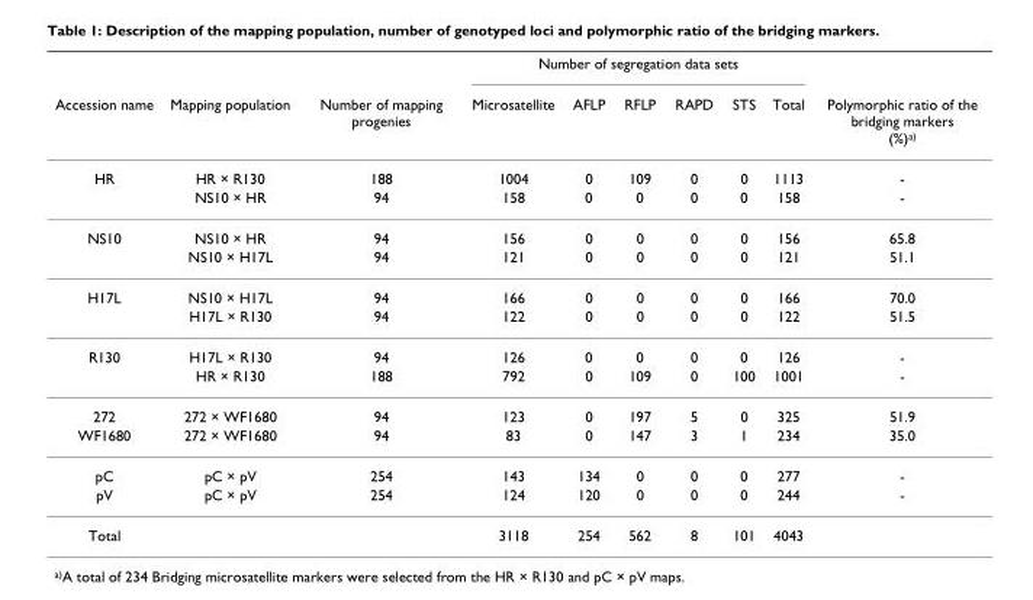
<table><thead><tr><td rowspan="2">Accession name</td><td rowspan="2">Mapping population</td><td rowspan="2">Number of mapping progenies</td><td colspan="6">Number of segregation data sets</td><td rowspan="2">Polymorphic ratio of the bridging markers (%)<sup>a)</sup></td></tr><tr><td>Microsatellite</td><td>AFLP</td><td>RFLP</td><td>RAPD</td><td>STS</td><td>Total</td></tr></thead><tbody><tr><td rowspan="2">HR</td><td>HR × R130</td><td>188</td><td>1004</td><td>0</td><td>109</td><td>0</td><td>0</td><td>1113</td><td>-</td></tr><tr><td>NS10 × HR</td><td>94</td><td>158</td><td>0</td><td>0</td><td>0</td><td>0</td><td>158</td><td>-</td></tr><tr><td rowspan="2">NS10</td><td>NS10 × HR</td><td>94</td><td>156</td><td>0</td><td>0</td><td>0</td><td>0</td><td>156</td><td>65.8</td></tr><tr><td>NS10 × H17L</td><td>94</td><td>121</td><td>0</td><td>0</td><td>0</td><td>0</td><td>121</td><td>51.1</td></tr><tr><td rowspan="2">H17L</td><td>NS10 × H17L</td><td>94</td><td>166</td><td>0</td><td>0</td><td>0</td><td>0</td><td>166</td><td>70.0</td></tr><tr><td>H17L × R130</td><td>94</td><td>122</td><td>0</td><td>0</td><td>0</td><td>0</td><td>122</td><td>51.5</td></tr><tr><td rowspan="2">R130</td><td>H17L × R130</td><td>94</td><td>126</td><td>0</td><td>0</td><td>0</td><td>0</td><td>126</td><td>-</td></tr><tr><td>HR × R130</td><td>188</td><td>792</td><td>0</td><td>109</td><td>0</td><td>100</td><td>1001</td><td>-</td></tr><tr><td>272</td><td>272 × WF1680</td><td>94</td><td>123</td><td>0</td><td>197</td><td>5</td><td>0</td><td>325</td><td>51.9</td></tr><tr><td>WF1680</td><td>272 × WF1680</td><td>94</td><td>83</td><td>0</td><td>147</td><td>3</td><td>1</td><td>234</td><td>35.0</td></tr><tr><td>pC</td><td>pC × pV</td><td>254</td><td>143</td><td>134</td><td>0</td><td>0</td><td>0</td><td>277</td><td>-</td></tr><tr><td>pV</td><td>pC × pV</td><td>254</td><td>124</td><td>120</td><td>0</td><td>0</td><td>0</td><td>244</td><td>-</td></tr><tr><td>Total</td><td></td><td></td><td>3118</td><td>254</td><td>562</td><td>8</td><td>101</td><td>4043</td><td></td></tr></tbody></table>